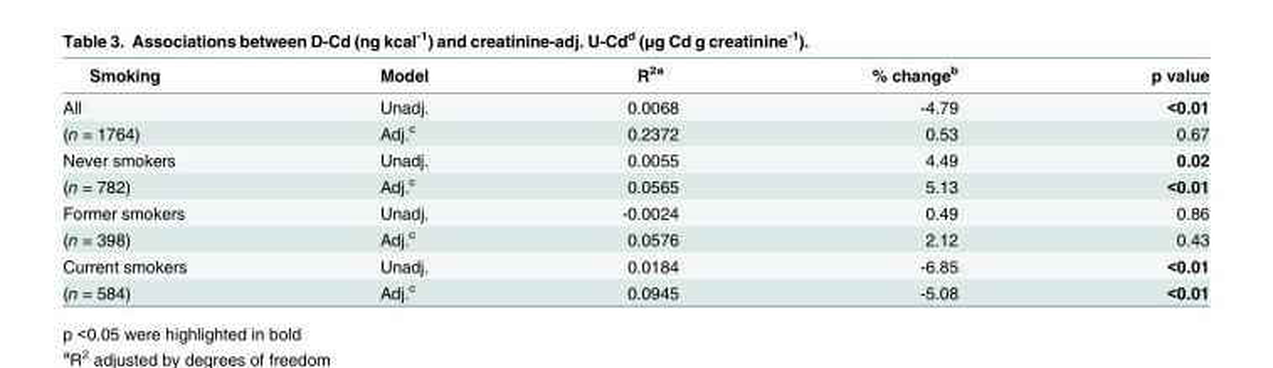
<table><thead><tr><td>Smoking</td><td>Model</td><td>R<sup>2a</sup></td><td>% change<sup>b</sup></td><td>p value</td></tr></thead><tbody><tr><td>All</td><td>Unadj.</td><td>0.0068</td><td>-4.79</td><td>&lt;0.01</td></tr><tr><td>(n = 1764)</td><td>Adj.<sup>c</sup></td><td>0.2372</td><td>0.53</td><td>0.67</td></tr><tr><td>Never smokers</td><td>Unadj.</td><td>0.0055</td><td>4.49</td><td>0.02</td></tr><tr><td>(n = 782)</td><td>Adj.<sup>c</sup></td><td>0.0565</td><td>5.13</td><td>&lt;0.01</td></tr><tr><td>Former smokers</td><td>Unadj.</td><td>-0.0024</td><td>0.49</td><td>0.86</td></tr><tr><td>(n = 398)</td><td>Adj.<sup>c</sup></td><td>0.0576</td><td>2.12</td><td>0.43</td></tr><tr><td>Current smokers</td><td>Unadj.</td><td>0.0184</td><td>-6.85</td><td>&lt;0.01</td></tr><tr><td>(n = 584)</td><td>Adj.<sup>c</sup></td><td>0.0945</td><td>-5.08</td><td>&lt;0.01</td></tr></tbody></table>